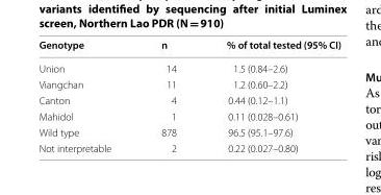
<table><thead><tr><td>Genotype</td><td>n</td><td>% of total tested (95% CI)</td></tr></thead><tbody><tr><td>Union</td><td>14</td><td>1.5 (0.84–2.6)</td></tr><tr><td>Viangchan</td><td>11</td><td>1.2 (0.60–2.2)</td></tr><tr><td>Canton</td><td>4</td><td>0.44 (0.12–1.1)</td></tr><tr><td>Mahidol</td><td>1</td><td>0.11 (0.028–0.61)</td></tr><tr><td>Wild type</td><td>878</td><td>96.5 (95.1–97.6)</td></tr><tr><td>Not interpretable</td><td>2</td><td>0.22 (0.027–0.80)</td></tr></tbody></table>